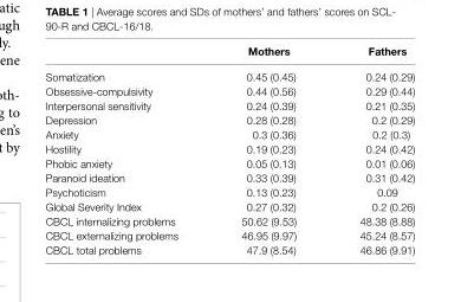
<table><thead><tr><td></td><td>Mothers</td><td>Fathers</td></tr></thead><tbody><tr><td>Somatization</td><td>0.45 (0.45)</td><td>0.24 (0.29)</td></tr><tr><td>Obsessive-compulsivity</td><td>0.44 (0.56)</td><td>0.29 (0.44)</td></tr><tr><td>Interpersonal sensitivity</td><td>0.24 (0.39)</td><td>0.21 (0.35)</td></tr><tr><td>Depression</td><td>0.28 (0.28)</td><td>0.2 (0.29)</td></tr><tr><td>Anxiety</td><td>0.3 (0.36)</td><td>0.2 (0.3)</td></tr><tr><td>Hostility</td><td>0.19 (0.23)</td><td>0.24 (0.42)</td></tr><tr><td>Phobic anxiety</td><td>0.05 (0.13)</td><td>0.01 (0.06)</td></tr><tr><td>Paranoid ideation</td><td>0.33 (0.39)</td><td>0.31 (0.42)</td></tr><tr><td>Psychoticism</td><td>0.13 (0.23)</td><td>0.09</td></tr><tr><td>Global Severity Index</td><td>0.27 (0.32)</td><td>0.2 (0.26)</td></tr><tr><td>CBCL internalizing problems</td><td>50.62 (9.53)</td><td>48.38 (8.88)</td></tr><tr><td>CBCL externalizing problems</td><td>46.95 (9.97)</td><td>45.24 (8.57)</td></tr><tr><td>CBCL total problems</td><td>47.9 (8.54)</td><td>46.86 (9.91)</td></tr></tbody></table>